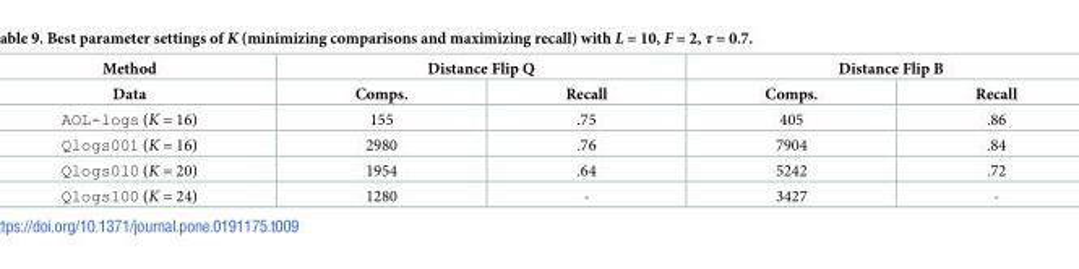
<table><thead><tr><td rowspan="2">Method Data</td><td colspan="2">Distance Flip Q</td><td colspan="2">Distance Flip B</td></tr><tr><td>Comps.</td><td>Recall</td><td>Comps.</td><td>Recall</td></tr></thead><tbody><tr><td>AOL-logs (K = 16)</td><td>155</td><td>.75</td><td>405</td><td>.86</td></tr><tr><td>Qlogs001 (K = 16)</td><td>2980</td><td>.76</td><td>7904</td><td>.84</td></tr><tr><td>Qlogs010 (K = 20)</td><td>1954</td><td>.64</td><td>5242</td><td>.72</td></tr><tr><td>Qlogs100 (K = 24)</td><td>1280</td><td>-</td><td>3427</td><td>-</td></tr></tbody></table>